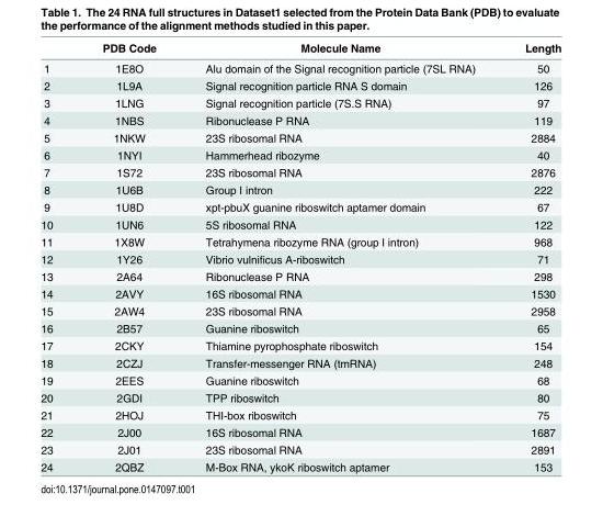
<table><thead><tr><td></td><td>PDB Code</td><td>Molecule Name</td><td>Length</td></tr></thead><tbody><tr><td>1</td><td>1E8O</td><td>Alu domain of the Signal recognition particle (7SL RNA)</td><td>50</td></tr><tr><td>2</td><td>1L9A</td><td>Signal recognition particle RNA S domain</td><td>126</td></tr><tr><td>3</td><td>1LNG</td><td>Signal recognition particle (7S.S RNA)</td><td>97</td></tr><tr><td>4</td><td>1NBS</td><td>Ribonuclease P RNA</td><td>119</td></tr><tr><td>5</td><td>1NKW</td><td>23S ribosomal RNA</td><td>2884</td></tr><tr><td>6</td><td>1NYI</td><td>Hammerhead ribozyme</td><td>40</td></tr><tr><td>7</td><td>1S72</td><td>23S ribosomal RNA</td><td>2876</td></tr><tr><td>8</td><td>1U6B</td><td>Group I intron</td><td>222</td></tr><tr><td>9</td><td>1U8D</td><td>xpt-pbuX guanine riboswitch aptamer domain</td><td>67</td></tr><tr><td>10</td><td>1UN6</td><td>5S ribosomal RNA</td><td>122</td></tr><tr><td>11</td><td>1X8W</td><td>Tetrahymena ribozyme RNA (group I intron)</td><td>968</td></tr><tr><td>12</td><td>1Y26</td><td>Vibrio vulnificus A-riboswitch</td><td>71</td></tr><tr><td>13</td><td>2A64</td><td>Ribonuclease P RNA</td><td>298</td></tr><tr><td>14</td><td>2AVY</td><td>16S ribosomal RNA</td><td>1530</td></tr><tr><td>15</td><td>2AW4</td><td>23S ribosomal RNA</td><td>2958</td></tr><tr><td>16</td><td>2B57</td><td>Guanine riboswitch</td><td>65</td></tr><tr><td>17</td><td>2CKY</td><td>Thiamine pyrophosphate riboswitch</td><td>154</td></tr><tr><td>18</td><td>2CZJ</td><td>Transfer-messenger RNA (tmRNA)</td><td>248</td></tr><tr><td>19</td><td>2EES</td><td>Guanine riboswitch</td><td>68</td></tr><tr><td>20</td><td>2GDI</td><td>TPP riboswitch</td><td>80</td></tr><tr><td>21</td><td>2HOJ</td><td>THI-box riboswitch</td><td>75</td></tr><tr><td>22</td><td>2J00</td><td>16S ribosomal RNA</td><td>1687</td></tr><tr><td>23</td><td>2J01</td><td>23S ribosomal RNA</td><td>2891</td></tr><tr><td>24</td><td>2QBZ</td><td>M-Box RNA, ykoK riboswitch aptamer</td><td>153</td></tr></tbody></table>